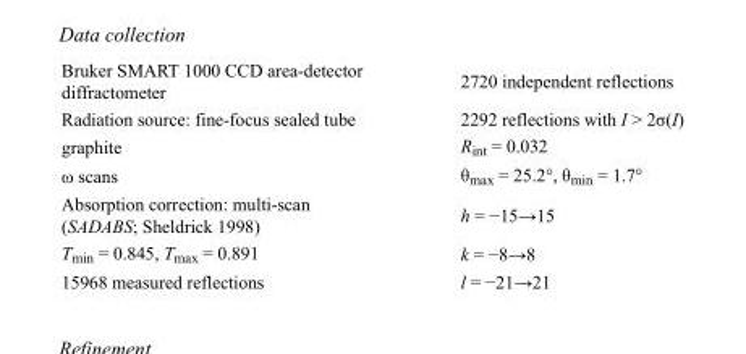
<table><tbody><tr><td>Bruker SMART 1000 CCD area-detector diffractometer</td><td>2720 independent reflections</td></tr><tr><td>Radiation source: fine-focus sealed tube</td><td>2292 reflections with I &gt; 2σ(I)</td></tr><tr><td>graphite</td><td>R<sub>int</sub> = 0.032</td></tr><tr><td>ω scans</td><td>θ<sub>max</sub> = 25.2°, θ<sub>min</sub> = 1.7°</td></tr><tr><td>Absorption correction: multi-scan (SADABS; Sheldrick 1998)</td><td>h = −15→15</td></tr><tr><td>T<sub>min</sub> = 0.845, T<sub>max</sub> = 0.891</td><td>k = −8→8</td></tr><tr><td>15968 measured reflections</td><td>l = −21→21</td></tr></tbody></table>